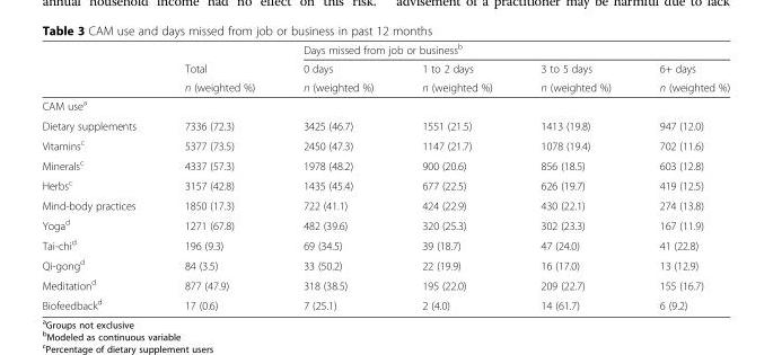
<table><thead><tr><td rowspan="3"></td><td rowspan="3">Total n (weighted %)</td><td colspan="4">Days missed from job or business<sup>b</sup></td></tr><tr><td rowspan="2">0 days n (weighted %)</td><td rowspan="2">1 to 2 days n (weighted %)</td><td rowspan="2">3 to 5 days n (weighted %)</td><td rowspan="2">6+ days n (weighted %)</td></tr><tr></tr></thead><tbody><tr><td colspan="6">CAM use<sup>a</sup></td></tr><tr><td>Dietary supplements</td><td>7336 (72.3)</td><td>3425 (46.7)</td><td>1551 (21.5)</td><td>1413 (19.8)</td><td>947 (12.0)</td></tr><tr><td>Vitamins<sup>c</sup></td><td>5377 (73.5)</td><td>2450 (47.3)</td><td>1147 (21.7)</td><td>1078 (19.4)</td><td>702 (11.6)</td></tr><tr><td>Minerals<sup>c</sup></td><td>4337 (57.3)</td><td>1978 (48.2)</td><td>900 (20.6)</td><td>856 (18.5)</td><td>603 (12.8)</td></tr><tr><td>Herbs<sup>c</sup></td><td>3157 (42.8)</td><td>1435 (45.4)</td><td>677 (22.5)</td><td>626 (19.7)</td><td>419 (12.5)</td></tr><tr><td>Mind-body practices</td><td>1850 (17.3)</td><td>722 (41.1)</td><td>424 (22.9)</td><td>430 (22.1)</td><td>274 (13.8)</td></tr><tr><td>Yoga<sup>d</sup></td><td>1271 (67.8)</td><td>482 (39.6)</td><td>320 (25.3)</td><td>302 (23.3)</td><td>167 (11.9)</td></tr><tr><td>Tai-chi<sup>d</sup></td><td>196 (9.3)</td><td>69 (34.5)</td><td>39 (18.7)</td><td>47 (24.0)</td><td>41 (22.8)</td></tr><tr><td>Qi-gong<sup>d</sup></td><td>84 (3.5)</td><td>33 (50.2)</td><td>22 (19.9)</td><td>16 (17.0)</td><td>13 (12.9)</td></tr><tr><td>Meditation<sup>d</sup></td><td>877 (47.9)</td><td>318 (38.5)</td><td>195 (22.0)</td><td>209 (22.7)</td><td>155 (16.7)</td></tr><tr><td>Biofeedback<sup>d</sup></td><td>17 (0.6)</td><td>7 (25.1)</td><td>2 (4.0)</td><td>14 (61.7)</td><td>6 (9.2)</td></tr></tbody></table>